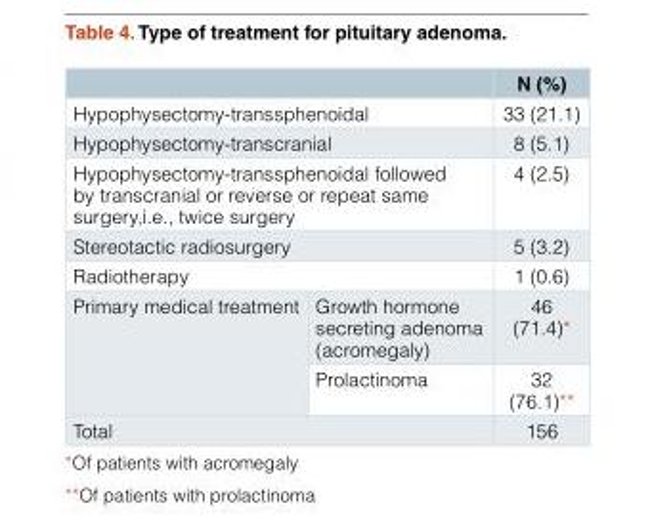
<table><thead><tr><td></td><td></td><td>N (%)</td></tr></thead><tbody><tr><td colspan="2">Hypophysectomy-transsphenoidal</td><td>33 (21.1)</td></tr><tr><td colspan="2">Hypophysectomy-transcranial</td><td>8 (5.1)</td></tr><tr><td colspan="2">Hypophysectomy-transsphenoidal followed by transcranial or reverse or repeat same surgery,i.e., twice surgery</td><td>4 (2.5)</td></tr><tr><td colspan="2">Stereotactic radiosurgery</td><td>5 (3.2)</td></tr><tr><td colspan="2">Radiotherapy</td><td>1 (0.6)</td></tr><tr><td rowspan="2">Primary medical treatment</td><td>Growth hormone secreting adenoma (acromegaly)</td><td>46 (71.4)*</td></tr><tr><td>Prolactinoma</td><td>32 (76.1)**</td></tr><tr><td colspan="2">Total</td><td>156</td></tr></tbody></table>